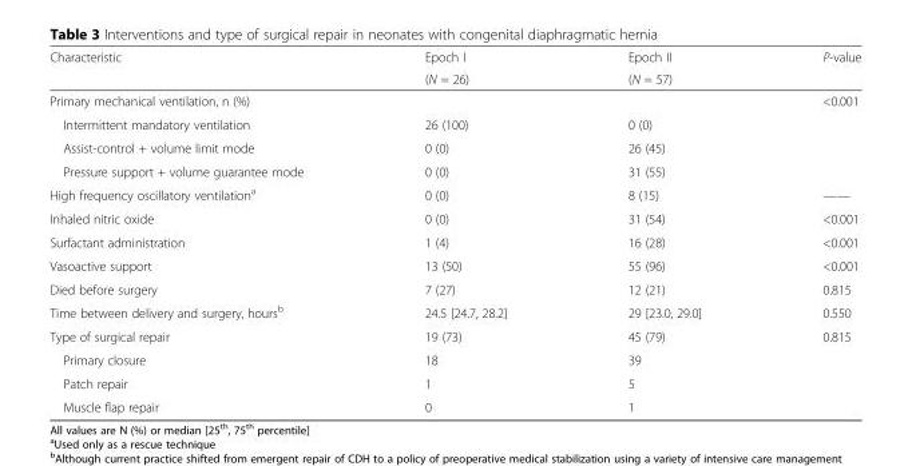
<table><thead><tr><td rowspan="2">Characteristic</td><td rowspan="2">Epoch I (N = 26)</td><td rowspan="2">Epoch II (N = 57)</td><td rowspan="2">P-value</td></tr><tr></tr></thead><tbody><tr><td>Primary mechanical ventilation, n (%)</td><td></td><td></td><td>&lt;0.001</td></tr><tr><td>Intermittent mandatory ventilation</td><td>26 (100)</td><td>0 (0)</td><td></td></tr><tr><td>Assist-control + volume limit mode</td><td>0 (0)</td><td>26 (45)</td><td></td></tr><tr><td>Pressure support + volume guarantee mode</td><td>0 (0)</td><td>31 (55)</td><td></td></tr><tr><td>High frequency oscillatory ventilation<sup>a</sup></td><td>0 (0)</td><td>8 (15)</td><td>——</td></tr><tr><td>Inhaled nitric oxide</td><td>0 (0)</td><td>31 (54)</td><td>&lt;0.001</td></tr><tr><td>Surfactant administration</td><td>1 (4)</td><td>16 (28)</td><td>&lt;0.001</td></tr><tr><td>Vasoactive support</td><td>13 (50)</td><td>55 (96)</td><td>&lt;0.001</td></tr><tr><td>Died before surgery</td><td>7 (27)</td><td>12 (21)</td><td>0.815</td></tr><tr><td>Time between delivery and surgery, hours<sup>b</sup></td><td>24.5 [24.7, 28.2]</td><td>29 [23.0, 29.0]</td><td>0.550</td></tr><tr><td>Type of surgical repair</td><td>19 (73)</td><td>45 (79)</td><td>0.815</td></tr><tr><td>Primary closure</td><td>18</td><td>39</td><td></td></tr><tr><td>Patch repair</td><td>1</td><td>5</td><td></td></tr><tr><td>Muscle flap repair</td><td>0</td><td>1</td><td></td></tr></tbody></table>